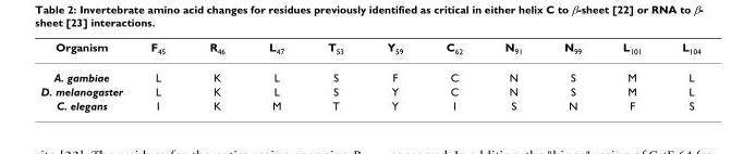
<table><thead><tr><td>Organism</td><td>F45</td><td>R46</td><td>L47</td><td>T53</td><td>Y59</td><td>C62</td><td>N91</td><td>N99</td><td>L101</td><td>L104</td></tr></thead><tbody><tr><td>A. gambiae</td><td>L</td><td>K</td><td>L</td><td>S</td><td>F</td><td>C</td><td>N</td><td>S</td><td>M</td><td>L</td></tr><tr><td>D. melanogaster</td><td>L</td><td>K</td><td>L</td><td>S</td><td>Y</td><td>C</td><td>N</td><td>S</td><td>M</td><td>L</td></tr><tr><td>C. elegans</td><td>I</td><td>K</td><td>M</td><td>T</td><td>Y</td><td>I</td><td>S</td><td>N</td><td>F</td><td>S</td></tr></tbody></table>